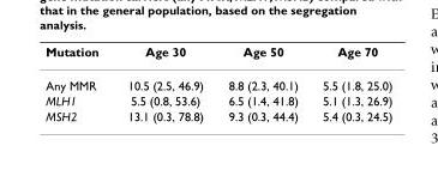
<table><thead><tr><td>Mutation</td><td>Age 30</td><td>Age 50</td><td>Age 70</td></tr></thead><tbody><tr><td>Any MMR</td><td>10.5 (2.5, 46.9)</td><td>8.8 (2.3, 40.1)</td><td>5.5 (1.8, 25.0)</td></tr><tr><td>MLH1</td><td>5.5 (0.8, 53.6)</td><td>6.5 (1.4, 41.8)</td><td>5.1 (1.3, 26.9)</td></tr><tr><td>MSH2</td><td>13.1 (0.3, 78.8)</td><td>9.3 (0.3, 44.4)</td><td>5.4 (0.3, 24.5)</td></tr></tbody></table>